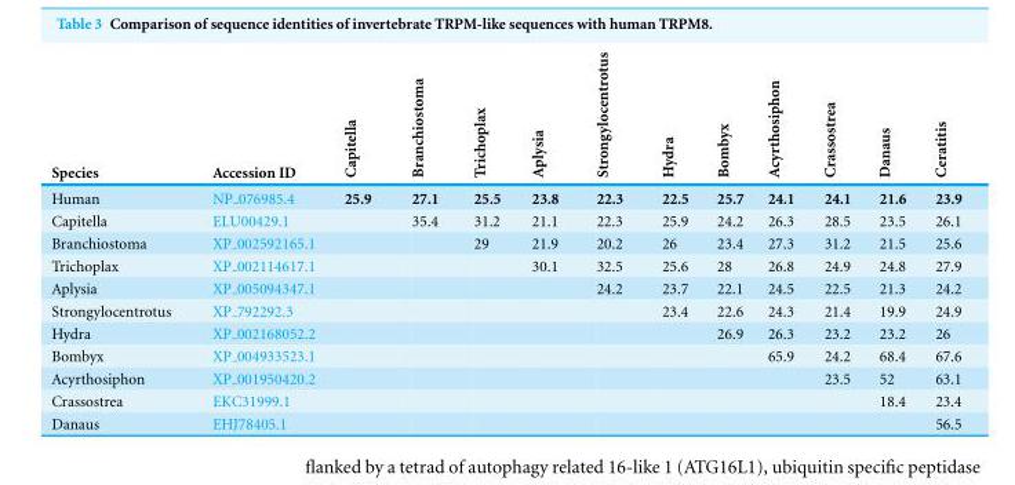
<table><thead><tr><td>Species</td><td>Accession ID</td><td>Capitella</td><td>Branchiostoma</td><td>Trichoplax</td><td>Aplysia</td><td>Strongylocentrotus</td><td>Hydra</td><td>Bombyx</td><td>Acyrthosiphon</td><td>Crassostrea</td><td>Danaus</td><td>Ceratitis</td></tr></thead><tbody><tr><td>Human</td><td>NP 076985.4</td><td>25.9</td><td>27.1</td><td>25.5</td><td>23.8</td><td>22.3</td><td>22.5</td><td>25.7</td><td>24.1</td><td>24.1</td><td>21.6</td><td>23.9</td></tr><tr><td>Capitella</td><td>ELU00429.1</td><td></td><td>35.4</td><td>31.2</td><td>21.1</td><td>22.3</td><td>25.9</td><td>24.2</td><td>26.3</td><td>28.5</td><td>23.5</td><td>26.1</td></tr><tr><td>Branchiostoma</td><td>XP 002592165.1</td><td></td><td></td><td>29</td><td>21.9</td><td>20.2</td><td>26</td><td>23.4</td><td>27.3</td><td>31.2</td><td>21.5</td><td>25.6</td></tr><tr><td>Trichoplax</td><td>XP 002114617.1</td><td></td><td></td><td></td><td>30.1</td><td>32.5</td><td>25.6</td><td>28</td><td>26.8</td><td>24.9</td><td>24.8</td><td>27.9</td></tr><tr><td>Aplysia</td><td>XP 005094347.1</td><td></td><td></td><td></td><td></td><td>24.2</td><td>23.7</td><td>22.1</td><td>24.5</td><td>22.5</td><td>21.3</td><td>24.2</td></tr><tr><td>Strongylocentrotus</td><td>XP 792292.3</td><td></td><td></td><td></td><td></td><td></td><td>23.4</td><td>22.6</td><td>24.3</td><td>21.4</td><td>19.9</td><td>24.9</td></tr><tr><td>Hydra</td><td>XP 002168052.2</td><td></td><td></td><td></td><td></td><td></td><td></td><td>26.9</td><td>26.3</td><td>23.2</td><td>23.2</td><td>26</td></tr><tr><td>Bombyx</td><td>XP 004933523.1</td><td></td><td></td><td></td><td></td><td></td><td></td><td></td><td>65.9</td><td>24.2</td><td>68.4</td><td>67.6</td></tr><tr><td>Acyrthosiphon</td><td>XP 001950420.2</td><td></td><td></td><td></td><td></td><td></td><td></td><td></td><td></td><td>23.5</td><td>52</td><td>63.1</td></tr><tr><td>Crassostrea</td><td>EKC31999.1</td><td></td><td></td><td></td><td></td><td></td><td></td><td></td><td></td><td></td><td>18.4</td><td>23.4</td></tr><tr><td>Danaus</td><td>EHJ78405.1</td><td></td><td></td><td></td><td></td><td></td><td></td><td></td><td></td><td></td><td></td><td>56.5</td></tr></tbody></table>